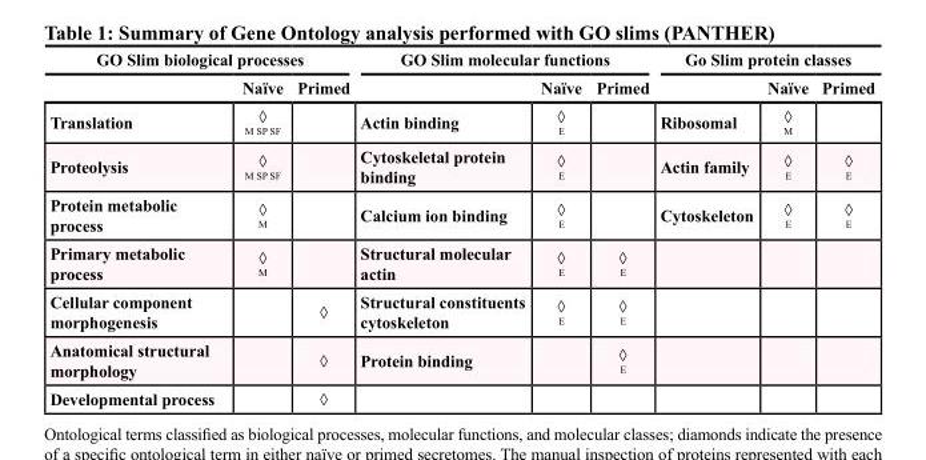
<table><thead><tr><td colspan="3">GO Slim biological processes</td><td colspan="3">GO Slim molecular functions</td><td colspan="3">Go Slim protein classes</td></tr><tr><td></td><td>Naïve</td><td>Primed</td><td></td><td>Naïve</td><td>Primed</td><td></td><td>Naïve</td><td>Primed</td></tr></thead><tbody><tr><td>Translation</td><td>◊ M SP SF</td><td></td><td>Actin binding</td><td>◊ E</td><td></td><td>Ribosomal</td><td>◊ M</td><td></td></tr><tr><td>Proteolysis</td><td>◊ M SP SF</td><td></td><td>Cytoskeletal protein binding</td><td>◊ E</td><td></td><td>Actin family</td><td>◊ E</td><td>◊ E</td></tr><tr><td>Protein metabolic process</td><td>◊ M</td><td></td><td>Calcium ion binding</td><td>◊ E</td><td></td><td>Cytoskeleton</td><td>◊ E</td><td>◊ E</td></tr><tr><td>Primary metabolic process</td><td>◊ M</td><td></td><td>Structural molecular actin</td><td>◊ E</td><td>◊ E</td><td></td><td></td><td></td></tr><tr><td>Cellular component morphogenesis</td><td></td><td>◊</td><td>Structural constituents cytoskeleton</td><td>◊ E</td><td>◊ E</td><td></td><td></td><td></td></tr><tr><td>Anatomical structural morphology</td><td></td><td>◊</td><td>Protein binding</td><td></td><td>◊ E</td><td></td><td></td><td></td></tr><tr><td>Developmental process</td><td></td><td>◊</td><td></td><td></td><td></td><td></td><td></td><td></td></tr></tbody></table>